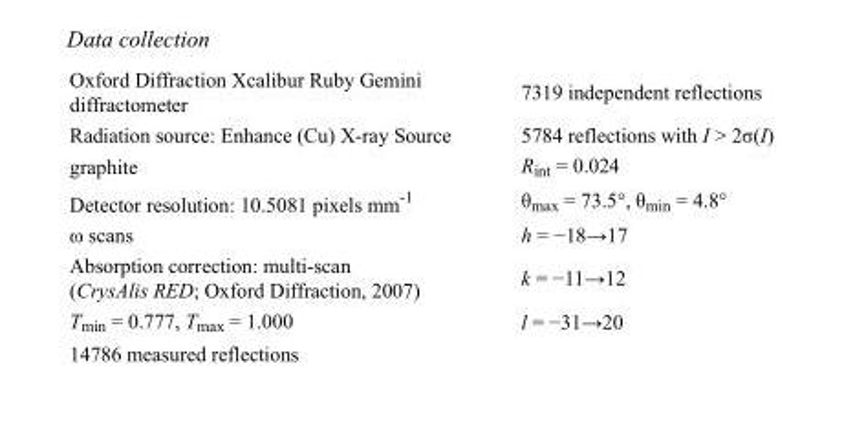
<table><tbody><tr><td>Oxford Diffraction Xcalibur Ruby Gemini diffractometer</td><td>7319 independent reflections</td></tr><tr><td>Radiation source: Enhance (Cu) X-ray Source</td><td>5784 reflections with I &gt; 2σ(I)</td></tr><tr><td>graphite</td><td>R<sub>int</sub> = 0.024</td></tr><tr><td>Detector resolution: 10.5081 pixels mm<sup>-1</sup></td><td>θ<sub>max</sub> = 73.5°, θ<sub>min</sub> = 4.8°</td></tr><tr><td>ω scans</td><td>h = −18→17</td></tr><tr><td>Absorption correction: multi-scan (CrysAlis RED; Oxford Diffraction, 2007)</td><td>k = −11→12</td></tr><tr><td>T<sub>min</sub> = 0.777, T<sub>max</sub> = 1.000</td><td>l = −31→20</td></tr><tr><td>14786 measured reflections</td><td></td></tr></tbody></table>